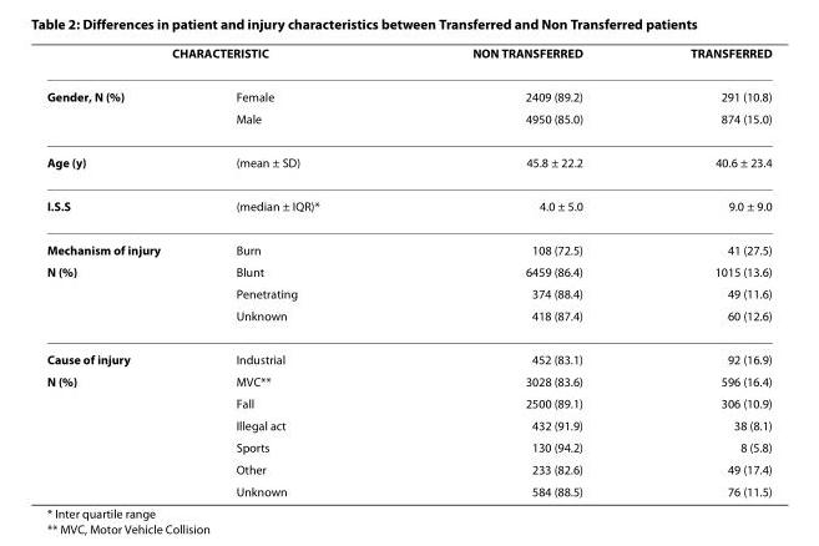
<table><thead><tr><td colspan="2">CHARACTERISTIC</td><td rowspan="2">NON TRANSFERRED 2409 (89.2)</td><td rowspan="2">TRANSFERRED 291 (10.8)</td></tr><tr><td>Gender, N (%)</td><td>Female</td></tr></thead><tbody><tr><td></td><td>Male</td><td>4950 (85.0)</td><td>874 (15.0)</td></tr><tr><td>Age (y)</td><td>(mean ± SD)</td><td>45.8 ± 22.2</td><td>40.6 ± 23.4</td></tr><tr><td>I.S.S</td><td>(median ± IQR)*</td><td>4.0 ± 5.0</td><td>9.0 ± 9.0</td></tr><tr><td>Mechanism of injury</td><td>Burn</td><td>108 (72.5)</td><td>41 (27.5)</td></tr><tr><td rowspan="3">N (%)</td><td>Blunt</td><td>6459 (86.4)</td><td>1015 (13.6)</td></tr><tr><td>Penetrating</td><td>374 (88.4)</td><td>49 (11.6)</td></tr><tr><td>Unknown</td><td>418 (87.4)</td><td>60 (12.6)</td></tr><tr><td>Cause of injury</td><td>Industrial</td><td>452 (83.1)</td><td>92 (16.9)</td></tr><tr><td rowspan="6">N (%)</td><td>MVC**</td><td>3028 (83.6)</td><td>596 (16.4)</td></tr><tr><td>Fall</td><td>2500 (89.1)</td><td>306 (10.9)</td></tr><tr><td>Illegal act</td><td>432 (91.9)</td><td>38 (8.1)</td></tr><tr><td>Sports</td><td>130 (94.2)</td><td>8 (5.8)</td></tr><tr><td>Other</td><td>233 (82.6)</td><td>49 (17.4)</td></tr><tr><td>Unknown</td><td>584 (88.5)</td><td>76 (11.5)</td></tr></tbody></table>